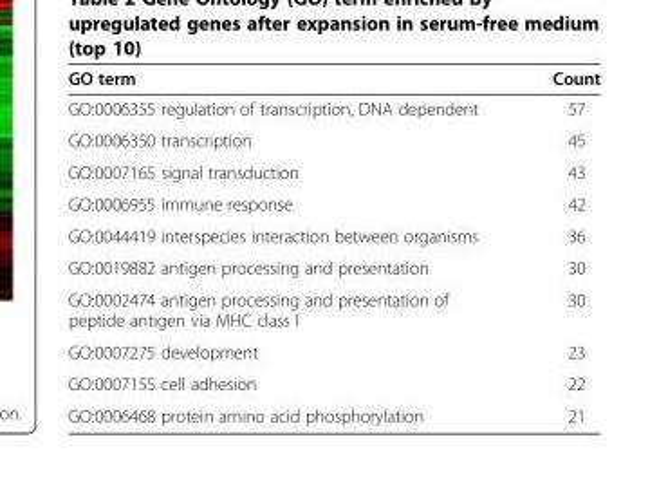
<table><thead><tr><td>GO term</td><td>Count</td></tr></thead><tbody><tr><td>GO:0006355 regulation of transcription, DNA dependent</td><td>57</td></tr><tr><td>GO:0006350 transcription</td><td>45</td></tr><tr><td>GO:0007165 signal transduction</td><td>43</td></tr><tr><td>GO:0006955 immune response</td><td>42</td></tr><tr><td>GO:0044419 interspecies interaction between organisms</td><td>36</td></tr><tr><td>GO:0019882 antigen processing and presentation</td><td>30</td></tr><tr><td>GO:0002474 antigen processing and presentation of peptide antigen via MHC class I</td><td>30</td></tr><tr><td>GO:0007275 development</td><td>23</td></tr><tr><td>GO:0007155 cell adhesion</td><td>22</td></tr><tr><td>GO:0006468 protein amino acid phosphorylation</td><td>21</td></tr></tbody></table>